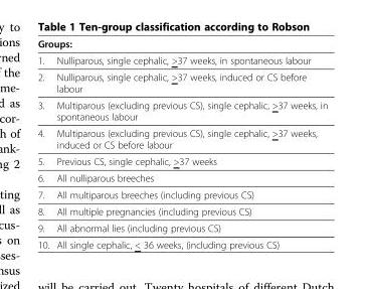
<table><thead><tr><td colspan="2">Groups:</td></tr><tr><td>1.</td><td>Nulliparous, single cephalic, &gt;37 weeks, in spontaneous labour</td></tr></thead><tbody><tr><td>2.</td><td>Nulliparous, single cephalic, &gt;37 weeks, induced or CS before labour</td></tr><tr><td>3.</td><td>Multiparous (excluding previous CS), single cephalic, &gt;37 weeks, in spontaneous labour</td></tr><tr><td>4.</td><td>Multiparous (excluding previous CS), single cephalic, &gt;37 weeks, induced or CS before labour</td></tr><tr><td>5.</td><td>Previous CS, single cephalic, &gt;37 weeks</td></tr><tr><td>6.</td><td>All nulliparous breeches</td></tr><tr><td>7.</td><td>All multiparous breeches (including previous CS)</td></tr><tr><td>8.</td><td>All multiple pregnancies (including previous CS)</td></tr><tr><td>9.</td><td>All abnormal lies (including previous CS)</td></tr><tr><td>10.</td><td>All single cephalic, &lt; 36 weeks, (including previous CS)</td></tr></tbody></table>